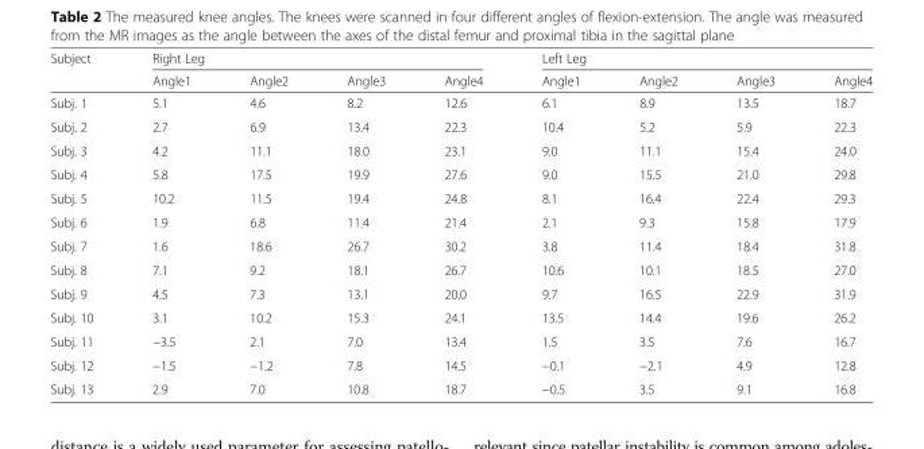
<table><thead><tr><td rowspan="2">Subject</td><td colspan="4">Right Leg</td><td colspan="4">Left Leg</td></tr><tr><td>Angle1</td><td>Angle2</td><td>Angle3</td><td>Angle4</td><td>Angle1</td><td>Angle2</td><td>Angle3</td><td>Angle4</td></tr></thead><tbody><tr><td>Subj. 1</td><td>5.1</td><td>4.6</td><td>8.2</td><td>12.6</td><td>6.1</td><td>8.9</td><td>13.5</td><td>18.7</td></tr><tr><td>Subj. 2</td><td>2.7</td><td>6.9</td><td>13.4</td><td>22.3</td><td>10.4</td><td>5.2</td><td>5.9</td><td>22.3</td></tr><tr><td>Subj. 3</td><td>4.2</td><td>11.1</td><td>18.0</td><td>23.1</td><td>9.0</td><td>11.1</td><td>15.4</td><td>24.0</td></tr><tr><td>Subj. 4</td><td>5.8</td><td>17.5</td><td>19.9</td><td>27.6</td><td>9.0</td><td>15.5</td><td>21.0</td><td>29.8</td></tr><tr><td>Subj. 5</td><td>10.2</td><td>11.5</td><td>19.4</td><td>24.8</td><td>8.1</td><td>16.4</td><td>22.4</td><td>29.3</td></tr><tr><td>Subj. 6</td><td>1.9</td><td>6.8</td><td>11.4</td><td>21.4</td><td>2.1</td><td>9.3</td><td>15.8</td><td>17.9</td></tr><tr><td>Subj. 7</td><td>1.6</td><td>18.6</td><td>26.7</td><td>30.2</td><td>3.8</td><td>11.4</td><td>18.4</td><td>31.8</td></tr><tr><td>Subj. 8</td><td>7.1</td><td>9.2</td><td>18.1</td><td>26.7</td><td>10.6</td><td>10.1</td><td>18.5</td><td>27.0</td></tr><tr><td>Subj. 9</td><td>4.5</td><td>7.3</td><td>13.1</td><td>20.0</td><td>9.7</td><td>16.5</td><td>22.9</td><td>31.9</td></tr><tr><td>Subj. 10</td><td>3.1</td><td>10.2</td><td>15.3</td><td>24.1</td><td>13.5</td><td>14.4</td><td>19.6</td><td>26.2</td></tr><tr><td>Subj. 11</td><td>−3.5</td><td>2.1</td><td>7.0</td><td>13.4</td><td>1.5</td><td>3.5</td><td>7.6</td><td>16.7</td></tr><tr><td>Subj. 12</td><td>−1.5</td><td>−1.2</td><td>7.8</td><td>14.5</td><td>−0.1</td><td>−2.1</td><td>4.9</td><td>12.8</td></tr><tr><td>Subj. 13</td><td>2.9</td><td>7.0</td><td>10.8</td><td>18.7</td><td>−0.5</td><td>3.5</td><td>9.1</td><td>16.8</td></tr></tbody></table>